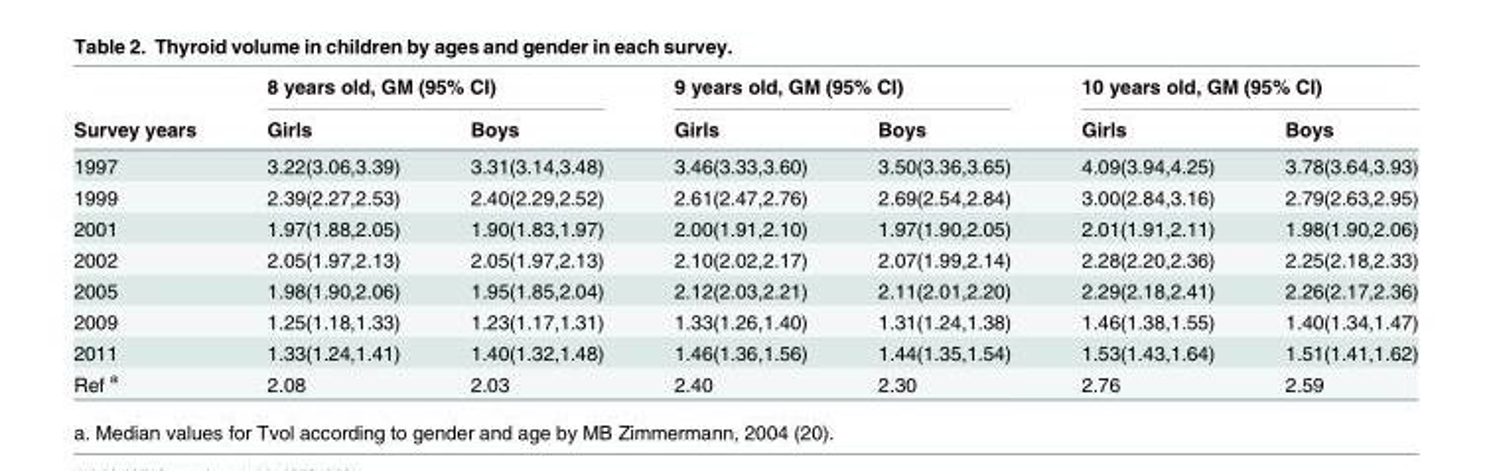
<table><thead><tr><td rowspan="2">Survey years</td><td colspan="2">8 years old, GM (95% CI)</td><td colspan="2">9 years old, GM (95% CI)</td><td colspan="2">10 years old, GM (95% CI)</td></tr><tr><td>Girls</td><td>Boys</td><td>Girls</td><td>Boys</td><td>Girls</td><td>Boys</td></tr></thead><tbody><tr><td>1997</td><td>3.22(3.06,3.39)</td><td>3.31(3.14,3.48)</td><td>3.46(3.33,3.60)</td><td>3.50(3.36,3.65)</td><td>4.09(3.94,4.25)</td><td>3.78(3.64,3.93)</td></tr><tr><td>1999</td><td>2.39(2.27,2.53)</td><td>2.40(2.29,2.52)</td><td>2.61(2.47,2.76)</td><td>2.69(2.54,2.84)</td><td>3.00(2.84,3.16)</td><td>2.79(2.63,2.95)</td></tr><tr><td>2001</td><td>1.97(1.88,2.05)</td><td>1.90(1.83,1.97)</td><td>2.00(1.91,2.10)</td><td>1.97(1.90,2.05)</td><td>2.01(1.91,2.11)</td><td>1.98(1.90,2.06)</td></tr><tr><td>2002</td><td>2.05(1.97,2.13)</td><td>2.05(1.97,2.13)</td><td>2.10(2.02,2.17)</td><td>2.07(1.99,2.14)</td><td>2.28(2.20,2.36)</td><td>2.25(2.18,2.33)</td></tr><tr><td>2005</td><td>1.98(1.90,2.06)</td><td>1.95(1.85,2.04)</td><td>2.12(2.03,2.21)</td><td>2.11(2.01,2.20)</td><td>2.29(2.18,2.41)</td><td>2.26(2.17,2.36)</td></tr><tr><td>2009</td><td>1.25(1.18,1.33)</td><td>1.23(1.17,1.31)</td><td>1.33(1.26,1.40)</td><td>1.31(1.24,1.38)</td><td>1.46(1.38,1.55)</td><td>1.40(1.34,1.47)</td></tr><tr><td>2011</td><td>1.33(1.24,1.41)</td><td>1.40(1.32,1.48)</td><td>1.46(1.36,1.56)</td><td>1.44(1.35,1.54)</td><td>1.53(1.43,1.64)</td><td>1.51(1.41,1.62)</td></tr><tr><td>Ref <sup>a</sup></td><td>2.08</td><td>2.03</td><td>2.40</td><td>2.30</td><td>2.76</td><td>2.59</td></tr></tbody></table>